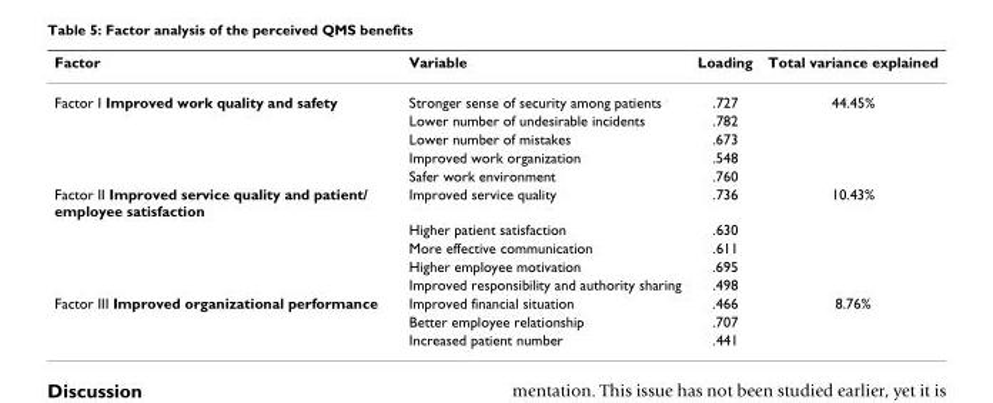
<table><thead><tr><td>Factor</td><td>Variable</td><td>Loading</td><td>Total variance explained</td></tr></thead><tbody><tr><td rowspan="5">Factor I Improved work quality and safety</td><td>Stronger sense of security among patients</td><td>.727</td><td>44.45%</td></tr><tr><td>Lower number of undesirable incidents</td><td>.782</td><td></td></tr><tr><td>Lower number of mistakes</td><td>.673</td><td></td></tr><tr><td>Improved work organization</td><td>.548</td><td></td></tr><tr><td>Safer work environment</td><td>.760</td><td></td></tr><tr><td rowspan="5">Factor II Improved service quality and patient/ employee satisfaction</td><td>Improved service quality</td><td>.736</td><td>10.43%</td></tr><tr><td>Higher patient satisfaction</td><td>.630</td><td></td></tr><tr><td>More effective communication</td><td>.611</td><td></td></tr><tr><td>Higher employee motivation</td><td>.695</td><td></td></tr><tr><td>Improved responsibility and authority sharing</td><td>.498</td><td></td></tr><tr><td rowspan="3">Factor III Improved organizational performance</td><td>Improved financial situation</td><td>.466</td><td>8.76%</td></tr><tr><td>Better employee relationship</td><td>.707</td><td></td></tr><tr><td>Increased patient number</td><td>.441</td><td></td></tr></tbody></table>